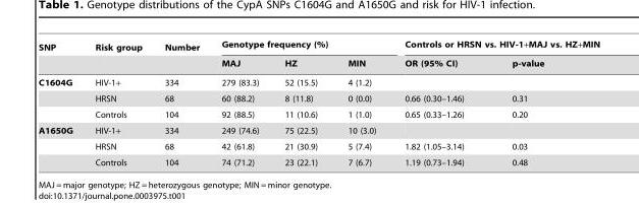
<table><thead><tr><td rowspan="2">SNP</td><td rowspan="2">Risk group</td><td rowspan="2">Number</td><td colspan="3">Genotype frequency (%)</td><td colspan="2">Controls or HRSN vs. HIV-1+MAJ vs. HZ+MIN</td></tr><tr><td>MAJ</td><td>HZ</td><td>MIN</td><td>OR (95% CI)</td><td>p-value</td></tr></thead><tbody><tr><td rowspan="3">C1604G</td><td>HIV-1+</td><td>334</td><td>279 (83.3)</td><td>52 (15.5)</td><td>4 (1.2)</td><td></td><td></td></tr><tr><td>HRSN</td><td>68</td><td>60 (88.2)</td><td>8 (11.8)</td><td>0 (0.0)</td><td>0.66 (0.30–1.46)</td><td>0.31</td></tr><tr><td>Controls</td><td>104</td><td>92 (88.5)</td><td>11 (10.6)</td><td>1 (1.0)</td><td>0.65 (0.33–1.26)</td><td>0.20</td></tr><tr><td rowspan="3">A1650G</td><td>HIV-1+</td><td>334</td><td>249 (74.6)</td><td>75 (22.5)</td><td>10 (3.0)</td><td></td><td></td></tr><tr><td>HRSN</td><td>68</td><td>42 (61.8)</td><td>21 (30.9)</td><td>5 (7.4)</td><td>1.82 (1.05–3.14)</td><td>0.03</td></tr><tr><td>Controls</td><td>104</td><td>74 (71.2)</td><td>23 (22.1)</td><td>7 (6.7)</td><td>1.19 (0.73–1.94)</td><td>0.48</td></tr></tbody></table>